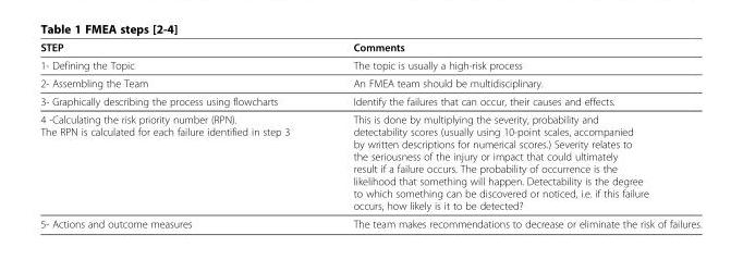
<table><thead><tr><td>STEP</td><td>Comments</td></tr></thead><tbody><tr><td>1- Defining the Topic</td><td>The topic is usually a high-risk process</td></tr><tr><td>2- Assembling the Team</td><td>An FMEA team should be multidisciplinary.</td></tr><tr><td>3- Graphically describing the process using flowcharts</td><td>Identify the failures that can occur, their causes and effects.</td></tr><tr><td>4 -Calculating the risk priority number (RPN). The RPN is calculated for each failure identified in step 3</td><td>This is done by multiplying the severity, probability and detectability scores (usually using 10-point scales, accompanied by written descriptions for numerical scores.) Severity relates to the seriousness of the injury or impact that could ultimately result if a failure occurs. The probability of occurrence is the likelihood that something will happen. Detectability is the degree to which something can be discovered or noticed, i.e. if this failure occurs, how likely is it to be detected?</td></tr><tr><td>5- Actions and outcome measures</td><td>The team makes recommendations to decrease or eliminate the risk of failures.</td></tr></tbody></table>